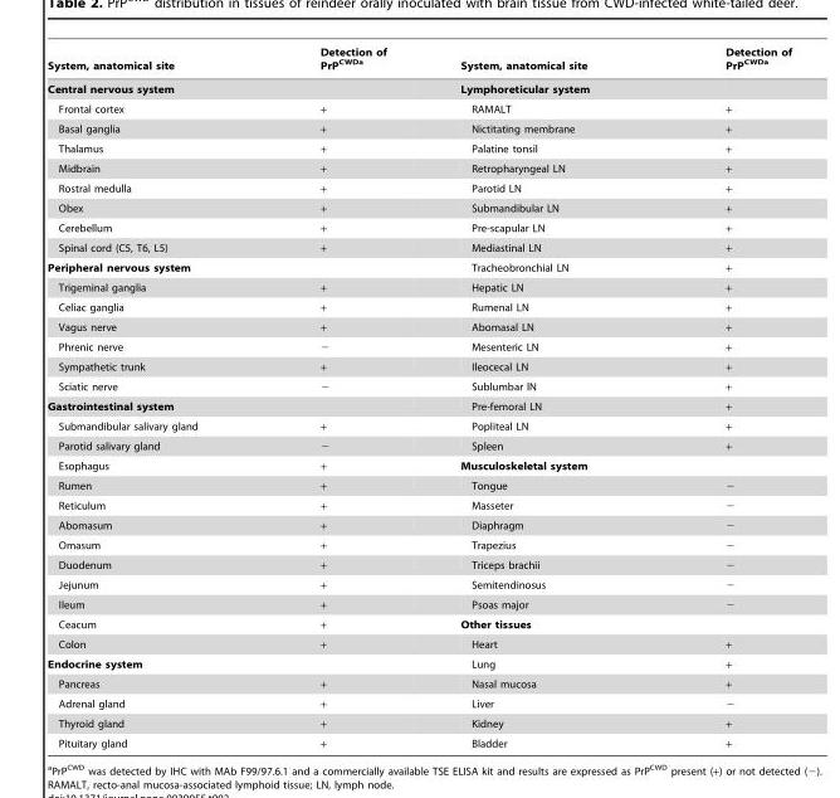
<table><thead><tr><td>System, anatomical site</td><td>Detection of PrP<sup>CWDa</sup></td><td>System, anatomical site</td><td>Detection of PrP<sup>CWDa</sup></td></tr></thead><tbody><tr><td>Central nervous system</td><td></td><td>Lymphoreticular system</td><td></td></tr><tr><td>Frontal cortex</td><td>+</td><td>RAMALT</td><td>+</td></tr><tr><td>Basal ganglia</td><td>+</td><td>Nictitating membrane</td><td>+</td></tr><tr><td>Thalamus</td><td>+</td><td>Palatine tonsil</td><td>+</td></tr><tr><td>Midbrain</td><td>+</td><td>Retropharyngeal LN</td><td>+</td></tr><tr><td>Rostral medulla</td><td>+</td><td>Parotid LN</td><td>+</td></tr><tr><td>Obex</td><td>+</td><td>Submandibular LN</td><td>+</td></tr><tr><td>Cerebellum</td><td>+</td><td>Pre-scapular LN</td><td>+</td></tr><tr><td>Spinal cord (C5, T6, L5)</td><td>+</td><td>Mediastinal LN</td><td>+</td></tr><tr><td>Peripheral nervous system</td><td></td><td>Tracheobronchial LN</td><td>+</td></tr><tr><td>Trigeminal ganglia</td><td>+</td><td>Hepatic LN</td><td>+</td></tr><tr><td>Celiac ganglia</td><td>+</td><td>Rumenal LN</td><td>+</td></tr><tr><td>Vagus nerve</td><td>+</td><td>Abomasal LN</td><td>+</td></tr><tr><td>Phrenic nerve</td><td>−</td><td>Mesenteric LN</td><td>+</td></tr><tr><td>Sympathetic trunk</td><td>+</td><td>Ileocecal LN</td><td>+</td></tr><tr><td>Sciatic nerve</td><td>−</td><td>Sublumbar lN</td><td>+</td></tr><tr><td>Gastrointestinal system</td><td></td><td>Pre-femoral LN</td><td>+</td></tr><tr><td>Submandibular salivary gland</td><td>+</td><td>Popliteal LN</td><td>+</td></tr><tr><td>Parotid salivary gland</td><td>−</td><td>Spleen</td><td>+</td></tr><tr><td>Esophagus</td><td>+</td><td>Musculoskeletal system</td><td></td></tr><tr><td>Rumen</td><td>+</td><td>Tongue</td><td>−</td></tr><tr><td>Reticulum</td><td>+</td><td>Masseter</td><td>−</td></tr><tr><td>Abomasum</td><td>+</td><td>Diaphragm</td><td>−</td></tr><tr><td>Omasum</td><td>+</td><td>Trapezius</td><td>−</td></tr><tr><td>Duodenum</td><td>+</td><td>Triceps brachii</td><td>−</td></tr><tr><td>Jejunum</td><td>+</td><td>Semitendinosus</td><td>−</td></tr><tr><td>Ileum</td><td>+</td><td>Psoas major</td><td>−</td></tr><tr><td>Ceacum</td><td>+</td><td>Other tissues</td><td></td></tr><tr><td>Colon</td><td>+</td><td>Heart</td><td>+</td></tr><tr><td>Endocrine system</td><td></td><td>Lung</td><td>+</td></tr><tr><td>Pancreas</td><td>+</td><td>Nasal mucosa</td><td>+</td></tr><tr><td>Adrenal gland</td><td>+</td><td>Liver</td><td>−</td></tr><tr><td>Thyroid gland</td><td>+</td><td>Kidney</td><td>+</td></tr><tr><td>Pituitary gland</td><td>+</td><td>Bladder</td><td>+</td></tr></tbody></table>